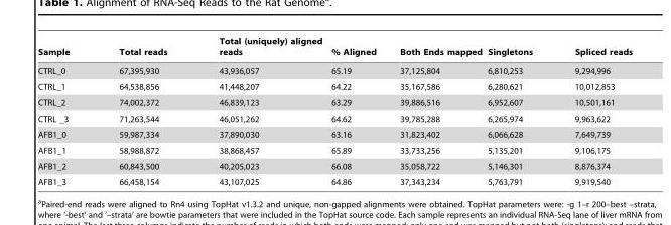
<table><thead><tr><td>Sample</td><td>Total reads</td><td>Total (uniquely) aligned reads</td><td>% Aligned</td><td>Both Ends mapped</td><td>Singletons</td><td>Spliced reads</td></tr></thead><tbody><tr><td>CTRL_0</td><td>67,395,930</td><td>43,936,057</td><td>65.19</td><td>37,125,804</td><td>6,810,253</td><td>9,294,996</td></tr><tr><td>CTRL_1</td><td>64,538,856</td><td>41,448,207</td><td>64.22</td><td>35,167,586</td><td>6,280,621</td><td>10,012,853</td></tr><tr><td>CTRL_2</td><td>74,002,372</td><td>46,839,123</td><td>63.29</td><td>39,886,516</td><td>6,952,607</td><td>10,501,161</td></tr><tr><td>CTRL _3</td><td>71,263,544</td><td>46,051,262</td><td>64.62</td><td>39,785,288</td><td>6,265,974</td><td>9,963,622</td></tr><tr><td>AFB1_0</td><td>59,987,334</td><td>37,890,030</td><td>63.16</td><td>31,823,402</td><td>6,066,628</td><td>7,649,739</td></tr><tr><td>AFB1_1</td><td>58,988,872</td><td>38,868,457</td><td>65.89</td><td>33,733,256</td><td>5,135,201</td><td>9,106,175</td></tr><tr><td>AFB1_2</td><td>60,843,500</td><td>40,205,023</td><td>66.08</td><td>35,058,722</td><td>5,146,301</td><td>8,876,374</td></tr><tr><td>AFB1_3</td><td>66,458,154</td><td>43,107,025</td><td>64.86</td><td>37,343,234</td><td>5,763,791</td><td>9,919,540</td></tr></tbody></table>